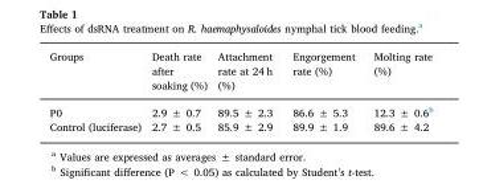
<table><thead><tr><td>Groups</td><td>Death rate after soaking (%)</td><td>Attachment rate at 24 h (%)</td><td>Engorgement rate (%)</td><td>Molting rate (%)</td></tr></thead><tbody><tr><td>P0</td><td>2.9 ± 0.7</td><td>89.5 ± 2.3</td><td>86.6 ± 5.3</td><td>12.3 ± 0.6<sup>b</sup></td></tr><tr><td>Control (luciferase)</td><td>2.7 ± 0.5</td><td>85.9 ± 2.9</td><td>89.9 ± 1.9</td><td>89.6 ± 4.2</td></tr></tbody></table>